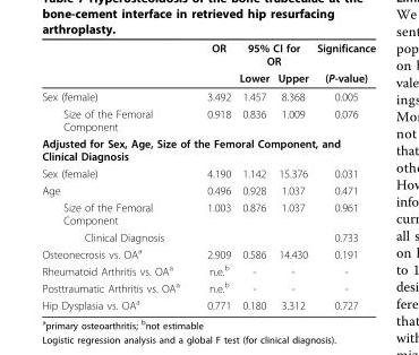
<table><thead><tr><td rowspan="2"></td><td rowspan="2">OR</td><td colspan="2">95% CI for OR</td><td rowspan="2">Significance (P-value)</td></tr><tr><td>Lower</td><td>Upper</td></tr></thead><tbody><tr><td>Sex (female)</td><td>3.492</td><td>1.457</td><td>8.368</td><td>0.005</td></tr><tr><td>Size of the Femoral Component</td><td>0.918</td><td>0.836</td><td>1.009</td><td>0.076</td></tr><tr><td colspan="5">Adjusted for Sex, Age, Size of the Femoral Component, and Clinical Diagnosis</td></tr><tr><td>Sex (female)</td><td>4.190</td><td>1.142</td><td>15.376</td><td>0.031</td></tr><tr><td>Age</td><td>0.496</td><td>0.928</td><td>1.037</td><td>0.471</td></tr><tr><td>Size of the Femoral Component</td><td>1.003</td><td>0.876</td><td>1.037</td><td>0.961</td></tr><tr><td>Clinical Diagnosis</td><td></td><td></td><td></td><td>0.733</td></tr><tr><td>Osteonecrosis vs. OA<sup>a</sup></td><td>2.909</td><td>0.586</td><td>14.430</td><td>0.191</td></tr><tr><td>Rheumatoid Arthritis vs. OA<sup>a</sup></td><td>n.e.<sup>b</sup></td><td>-</td><td>-</td><td>-</td></tr><tr><td>Posttraumatic Arthritis vs. OA<sup>a</sup></td><td>n.e.<sup>b</sup></td><td>-</td><td>-</td><td>-</td></tr><tr><td>Hip Dysplasia vs. OA<sup>a</sup></td><td>0.771</td><td>0.180</td><td>3.312</td><td>0.727</td></tr></tbody></table>